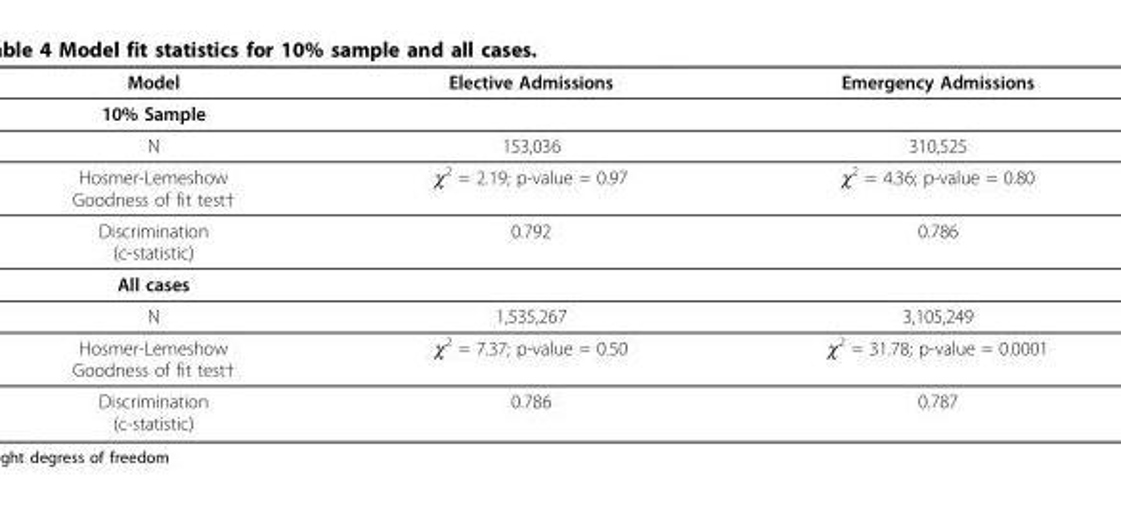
<table><thead><tr><td>Model</td><td>Elective Admissions</td><td>Emergency Admissions</td></tr></thead><tbody><tr><td colspan="3">10% Sample</td></tr><tr><td>N</td><td>153,036</td><td>310,525</td></tr><tr><td>Hosmer-Lemeshow Goodness of fit test†</td><td>χ<sup>2</sup> = 2.19; p-value = 0.97</td><td>χ<sup>2</sup> = 4.36; p-value = 0.80</td></tr><tr><td>Discrimination (c-statistic)</td><td>0.792</td><td>0.786</td></tr><tr><td colspan="3">All cases</td></tr><tr><td>N</td><td>1,535,267</td><td>3,105,249</td></tr><tr><td>Hosmer-Lemeshow Goodness of fit test†</td><td>χ<sup>2</sup> = 7.37; p-value = 0.50</td><td>χ<sup>2</sup> = 31.78; p-value = 0.0001</td></tr><tr><td>Discrimination (c-statistic)</td><td>0.786</td><td>0.787</td></tr></tbody></table>